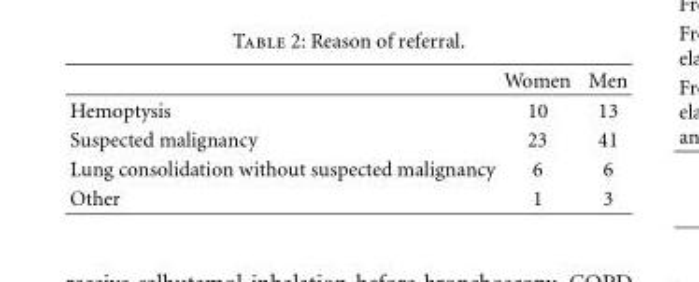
<table><thead><tr><td></td><td>Women</td><td>Men</td></tr></thead><tbody><tr><td>Hemoptysis</td><td>10</td><td>13</td></tr><tr><td>Suspected malignancy</td><td>23</td><td>41</td></tr><tr><td>Lung consolidation without suspected malignancy</td><td>6</td><td>6</td></tr><tr><td>Other</td><td>1</td><td>3</td></tr></tbody></table>